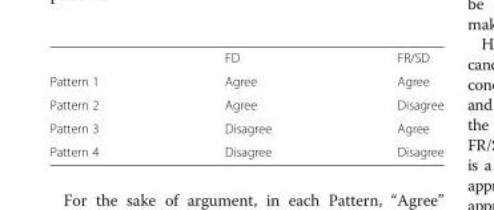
<table><thead><tr><td></td><td>FD</td><td>FR/SD</td></tr></thead><tbody><tr><td>Pattern 1</td><td>Agree</td><td>Agree</td></tr><tr><td>Pattern 2</td><td>Agree</td><td>Disagree</td></tr><tr><td>Pattern 3</td><td>Disagree</td><td>Agree</td></tr><tr><td>Pattern 4</td><td>Disagree</td><td>Disagree</td></tr></tbody></table>